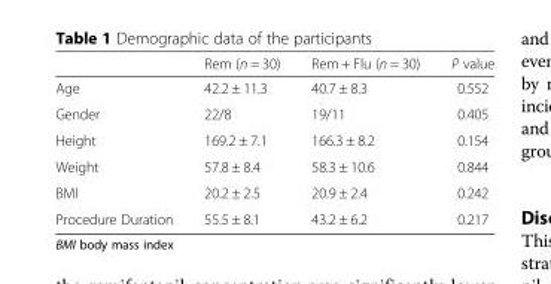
<table><thead><tr><td></td><td>Rem (n = 30)</td><td>Rem + Flu (n = 30)</td><td>P value</td></tr></thead><tbody><tr><td>Age</td><td>42.2 ± 11.3</td><td>40.7 ± 8.3</td><td>0.552</td></tr><tr><td>Gender</td><td>22/8</td><td>19/11</td><td>0.405</td></tr><tr><td>Height</td><td>169.2 ± 7.1</td><td>166.3 ± 8.2</td><td>0.154</td></tr><tr><td>Weight</td><td>57.8 ± 8.4</td><td>58.3 ± 10.6</td><td>0.844</td></tr><tr><td>BMI</td><td>20.2 ± 2.5</td><td>20.9 ± 2.4</td><td>0.242</td></tr><tr><td>Procedure Duration</td><td>55.5 ± 8.1</td><td>43.2 ± 6.2</td><td>0.217</td></tr></tbody></table>